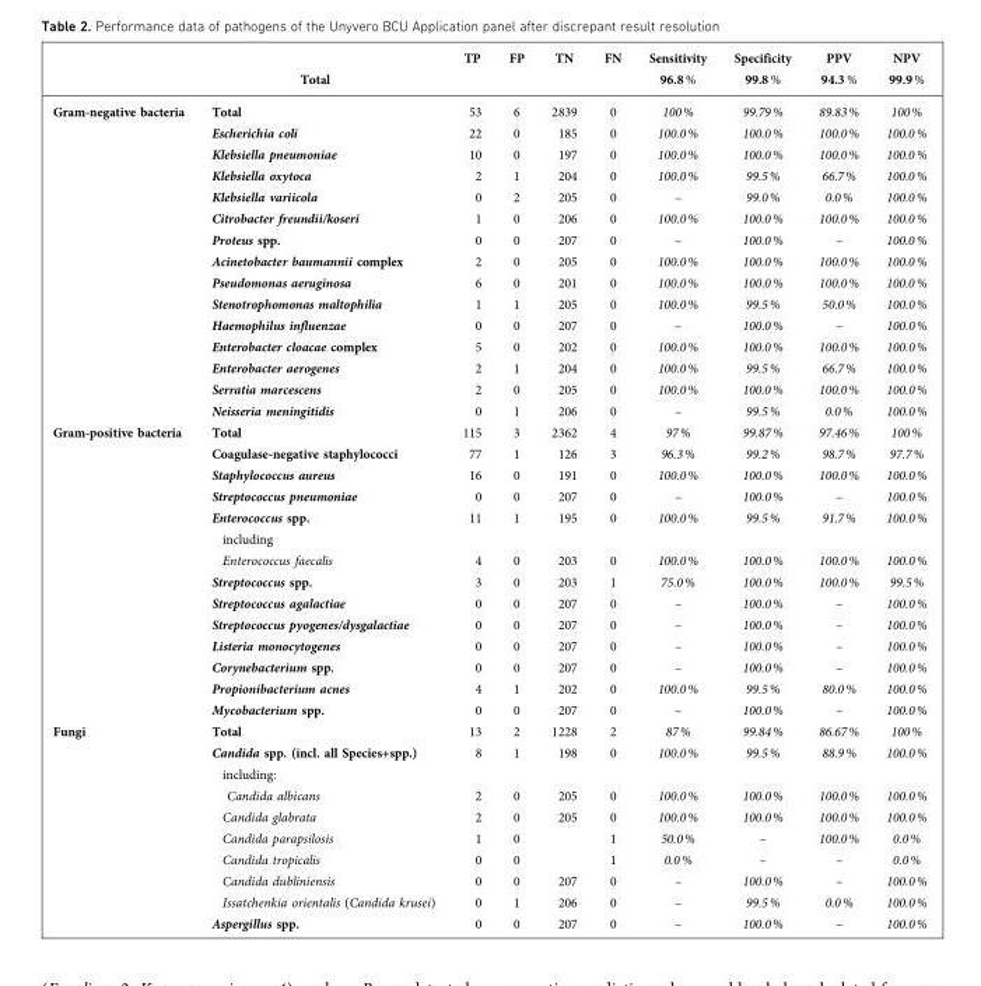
<table><thead><tr><td></td><td></td><td>TP</td><td>FP</td><td>TN</td><td rowspan="2">FN</td><td rowspan="2">Sensitivity 96.8 %</td><td rowspan="2">Specificity 99.8 %</td><td rowspan="2">PPV 94.3 %</td><td rowspan="2">NPV 99.9 %</td></tr><tr><td colspan="5">Total</td></tr></thead><tbody><tr><td rowspan="15">Gram-negative bacteria</td><td>Total</td><td>53</td><td>6</td><td>2839</td><td>0</td><td>100 %</td><td>99.79 %</td><td>89.83 %</td><td>100 %</td></tr><tr><td>Escherichia coli</td><td>22</td><td>0</td><td>185</td><td>0</td><td>100.0 %</td><td>100.0 %</td><td>100.0 %</td><td>100.0 %</td></tr><tr><td>Klebsiella pneumoniae</td><td>10</td><td>0</td><td>197</td><td>0</td><td>100.0 %</td><td>100.0 %</td><td>100.0 %</td><td>100.0 %</td></tr><tr><td>Klebsiella oxytoca</td><td>2</td><td>1</td><td>204</td><td>0</td><td>100.0 %</td><td>99.5 %</td><td>66.7 %</td><td>100.0 %</td></tr><tr><td>Klebsiella variicola</td><td>0</td><td>2</td><td>205</td><td>0</td><td>–</td><td>99.0 %</td><td>0.0 %</td><td>100.0 %</td></tr><tr><td>Citrobacter freundii/koseri</td><td>1</td><td>0</td><td>206</td><td>0</td><td>100.0 %</td><td>100.0 %</td><td>100.0 %</td><td>100.0 %</td></tr><tr><td>Proteus spp.</td><td>0</td><td>0</td><td>207</td><td>0</td><td>–</td><td>100.0 %</td><td>–</td><td>100.0 %</td></tr><tr><td>Acinetobacter baumannii complex</td><td>2</td><td>0</td><td>205</td><td>0</td><td>100.0 %</td><td>100.0 %</td><td>100.0 %</td><td>100.0 %</td></tr><tr><td>Pseudomonas aeruginosa</td><td>6</td><td>0</td><td>201</td><td>0</td><td>100.0 %</td><td>100.0 %</td><td>100.0 %</td><td>100.0 %</td></tr><tr><td>Stenotrophomonas maltophilia</td><td>1</td><td>1</td><td>205</td><td>0</td><td>100.0 %</td><td>99.5 %</td><td>50.0 %</td><td>100.0 %</td></tr><tr><td>Haemophilus influenzae</td><td>0</td><td>0</td><td>207</td><td>0</td><td>–</td><td>100.0 %</td><td>–</td><td>100.0 %</td></tr><tr><td>Enterobacter cloacae complex</td><td>5</td><td>0</td><td>202</td><td>0</td><td>100.0 %</td><td>100.0 %</td><td>100.0 %</td><td>100.0 %</td></tr><tr><td>Enterobacter aerogenes</td><td>2</td><td>1</td><td>204</td><td>0</td><td>100.0 %</td><td>99.5 %</td><td>66.7 %</td><td>100.0 %</td></tr><tr><td>Serratia marcescens</td><td>2</td><td>0</td><td>205</td><td>0</td><td>100.0 %</td><td>100.0 %</td><td>100.0 %</td><td>100.0 %</td></tr><tr><td>Neisseria meningitidis</td><td>0</td><td>1</td><td>206</td><td>0</td><td>–</td><td>99.5 %</td><td>0.0 %</td><td>100.0 %</td></tr><tr><td rowspan="14">Gram-positive bacteria</td><td>Total</td><td>115</td><td>3</td><td>2362</td><td>4</td><td>97 %</td><td>99.87 %</td><td>97.46 %</td><td>100 %</td></tr><tr><td>Coagulase-negative staphylococci</td><td>77</td><td>1</td><td>126</td><td>3</td><td>96.3 %</td><td>99.2 %</td><td>98.7 %</td><td>97.7 %</td></tr><tr><td>Staphylococcus aureus</td><td>16</td><td>0</td><td>191</td><td>0</td><td>100.0 %</td><td>100.0 %</td><td>100.0 %</td><td>100.0 %</td></tr><tr><td>Streptococcus pneumoniae</td><td>0</td><td>0</td><td>207</td><td>0</td><td>–</td><td>100.0 %</td><td>–</td><td>100.0 %</td></tr><tr><td>Enterococcus spp.</td><td>11</td><td>1</td><td>195</td><td>0</td><td>100.0 %</td><td>99.5 %</td><td>91.7 %</td><td>100.0 %</td></tr><tr><td>including</td><td></td><td></td><td></td><td></td><td></td><td></td><td></td><td></td></tr><tr><td>Enterococcus faecalis</td><td>4</td><td>0</td><td>203</td><td>0</td><td>100.0 %</td><td>100.0 %</td><td>100.0 %</td><td>100.0 %</td></tr><tr><td>Streptococcus spp.</td><td>3</td><td>0</td><td>203</td><td>1</td><td>75.0 %</td><td>100.0 %</td><td>100.0 %</td><td>99.5 %</td></tr><tr><td>Streptococcus agalactiae</td><td>0</td><td>0</td><td>207</td><td>0</td><td>–</td><td>100.0 %</td><td>–</td><td>100.0 %</td></tr><tr><td>Streptococcus pyogenes/dysgalactiae</td><td>0</td><td>0</td><td>207</td><td>0</td><td>–</td><td>100.0 %</td><td>–</td><td>100.0 %</td></tr><tr><td>Listeria monocytogenes</td><td>0</td><td>0</td><td>207</td><td>0</td><td>–</td><td>100.0 %</td><td>–</td><td>100.0 %</td></tr><tr><td>Corynebacterium spp.</td><td>0</td><td>0</td><td>207</td><td>0</td><td>–</td><td>100.0 %</td><td>–</td><td>100.0 %</td></tr><tr><td>Propionibacterium acnes</td><td>4</td><td>1</td><td>202</td><td>0</td><td>100.0 %</td><td>99.5 %</td><td>80.0 %</td><td>100.0 %</td></tr><tr><td>Mycobacterium spp.</td><td>0</td><td>0</td><td>207</td><td>0</td><td>–</td><td>100.0 %</td><td>–</td><td>100.0 %</td></tr><tr><td rowspan="10">Fungi</td><td>Total</td><td>13</td><td>2</td><td>1228</td><td>2</td><td>87 %</td><td>99.84 %</td><td>86.67 %</td><td>100 %</td></tr><tr><td>Candida spp. (incl. all Species+spp.)</td><td>8</td><td>1</td><td>198</td><td>0</td><td>100.0 %</td><td>99.5 %</td><td>88.9 %</td><td>100.0 %</td></tr><tr><td>including:</td><td></td><td></td><td></td><td></td><td></td><td></td><td></td><td></td></tr><tr><td>Candida albicans</td><td>2</td><td>0</td><td>205</td><td>0</td><td>100.0 %</td><td>100.0 %</td><td>100.0 %</td><td>100.0 %</td></tr><tr><td>Candida glabrata</td><td>2</td><td>0</td><td>205</td><td>0</td><td>100.0 %</td><td>100.0 %</td><td>100.0 %</td><td>100.0 %</td></tr><tr><td>Candida parapsilosis</td><td>1</td><td>0</td><td></td><td>1</td><td>50.0 %</td><td>–</td><td>100.0 %</td><td>0.0 %</td></tr><tr><td>Candida tropicalis</td><td>0</td><td>0</td><td></td><td>1</td><td>0.0 %</td><td>–</td><td>–</td><td>0.0 %</td></tr><tr><td>Candida dubliniensis</td><td>0</td><td>0</td><td>207</td><td>0</td><td>–</td><td>100.0 %</td><td>–</td><td>100.0 %</td></tr><tr><td>Issatchenkia orientalis (Candida krusei)</td><td>0</td><td>1</td><td>206</td><td>0</td><td>–</td><td>99.5 %</td><td>0.0 %</td><td>100.0 %</td></tr><tr><td>Aspergillus spp.</td><td>0</td><td>0</td><td>207</td><td>0</td><td>–</td><td>100.0 %</td><td>–</td><td>100.0 %</td></tr></tbody></table>